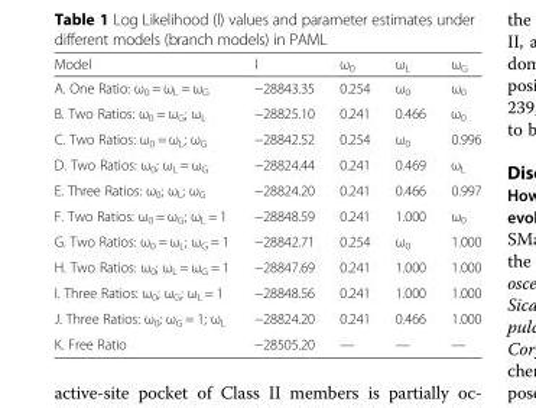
<table><thead><tr><td>Model</td><td>l</td><td>ω<sub>0</sub></td><td>ω<sub>L</sub></td><td>ω<sub>G</sub></td></tr></thead><tbody><tr><td>A. One Ratio: ω<sub>0</sub> = ω<sub>L</sub> = ω<sub>G</sub></td><td>−28843.35</td><td>0.254</td><td>ω<sub>0</sub></td><td>ω<sub>0</sub></td></tr><tr><td>B. Two Ratios: ω<sub>0</sub> = ω<sub>G</sub>; ω<sub>L</sub></td><td>−28825.10</td><td>0.241</td><td>0.466</td><td>ω<sub>0</sub></td></tr><tr><td>C. Two Ratios: ω<sub>0</sub> = ω<sub>L</sub>; ω<sub>G</sub></td><td>−28842.52</td><td>0.254</td><td>ω<sub>0</sub></td><td>0.996</td></tr><tr><td>D. Two Ratios: ω<sub>0</sub>; ω<sub>L</sub> = ω<sub>G</sub></td><td>−28824.44</td><td>0.241</td><td>0.469</td><td>ω<sub>L</sub></td></tr><tr><td>E. Three Ratios: ω<sub>0</sub>; ω<sub>L</sub>; ω<sub>G</sub></td><td>−28824.20</td><td>0.241</td><td>0.466</td><td>0.997</td></tr><tr><td>F. Two Ratios: ω<sub>0</sub> = ω<sub>G</sub>; ω<sub>L</sub> = 1</td><td>−28848.59</td><td>0.241</td><td>1.000</td><td>ω<sub>0</sub></td></tr><tr><td>G. Two Ratios: ω<sub>0</sub> = ω<sub>L</sub>; ω<sub>G</sub> = 1</td><td>−28842.71</td><td>0.254</td><td>ω<sub>0</sub></td><td>1.000</td></tr><tr><td>H. Two Ratios: ω<sub>0</sub>; ω<sub>L</sub> = ω<sub>G</sub> = 1</td><td>−28847.69</td><td>0.241</td><td>1.000</td><td>1.000</td></tr><tr><td>I. Three Ratios: ω<sub>0</sub>; ω<sub>G</sub>; ω<sub>L</sub> = 1</td><td>−28848.56</td><td>0.241</td><td>1.000</td><td>1.000</td></tr><tr><td>J. Three Ratios: ω<sub>0</sub>; ω<sub>G</sub> = 1; ω<sub>L</sub></td><td>−28824.20</td><td>0.241</td><td>0.466</td><td>1.000</td></tr><tr><td>K. Free Ratio</td><td>−28505.20</td><td>—</td><td>—</td><td>—</td></tr></tbody></table>